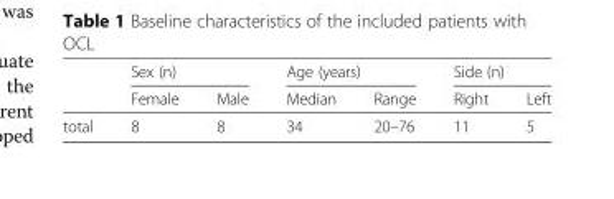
<table><thead><tr><td rowspan="2"></td><td colspan="2">Sex (n)</td><td colspan="2">Age (years)</td><td colspan="2">Side (n)</td></tr><tr><td>Female</td><td>Male</td><td>Median</td><td>Range</td><td>Right</td><td>Left</td></tr></thead><tbody><tr><td>total</td><td>8</td><td>8</td><td>34</td><td>20–76</td><td>11</td><td>5</td></tr></tbody></table>